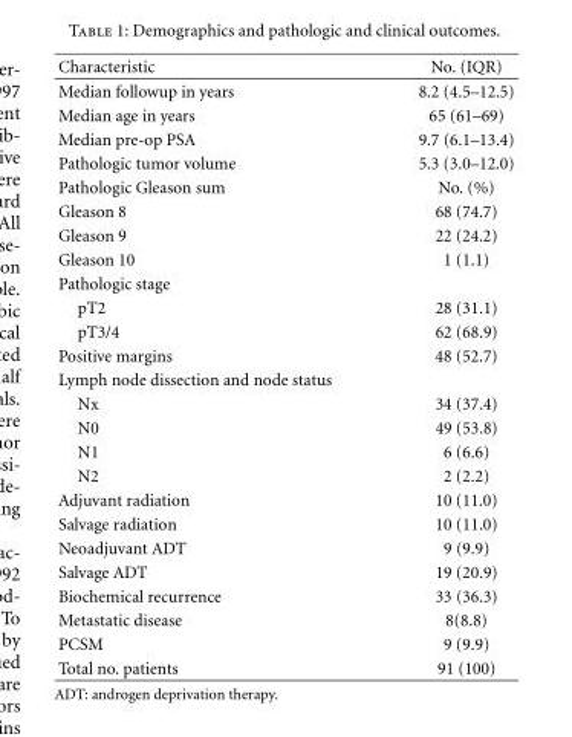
<table><thead><tr><td>Characteristic</td><td>No. (IQR)</td></tr></thead><tbody><tr><td>Median followup in years</td><td>8.2 (4.5–12.5)</td></tr><tr><td>Median age in years</td><td>65 (61–69)</td></tr><tr><td>Median pre-op PSA</td><td>9.7 (6.1–13.4)</td></tr><tr><td>Pathologic tumor volume</td><td>5.3 (3.0–12.0)</td></tr><tr><td>Pathologic Gleason sum</td><td>No. (%)</td></tr><tr><td>Gleason 8</td><td>68 (74.7)</td></tr><tr><td>Gleason 9</td><td>22 (24.2)</td></tr><tr><td>Gleason 10</td><td>1 (1.1)</td></tr><tr><td colspan="2">Pathologic stage</td></tr><tr><td>pT2</td><td>28 (31.1)</td></tr><tr><td>pT3/4</td><td>62 (68.9)</td></tr><tr><td>Positive margins</td><td>48 (52.7)</td></tr><tr><td colspan="2">Lymph node dissection and node status</td></tr><tr><td>Nx</td><td>34 (37.4)</td></tr><tr><td>N0</td><td>49 (53.8)</td></tr><tr><td>N1</td><td>6 (6.6)</td></tr><tr><td>N2</td><td>2 (2.2)</td></tr><tr><td>Adjuvant radiation</td><td>10 (11.0)</td></tr><tr><td>Salvage radiation</td><td>10 (11.0)</td></tr><tr><td>Neoadjuvant ADT</td><td>9 (9.9)</td></tr><tr><td>Salvage ADT</td><td>19 (20.9)</td></tr><tr><td>Biochemical recurrence</td><td>33 (36.3)</td></tr><tr><td>Metastatic disease</td><td>8(8.8)</td></tr><tr><td>PCSM</td><td>9 (9.9)</td></tr><tr><td>Total no. patients</td><td>91 (100)</td></tr></tbody></table>